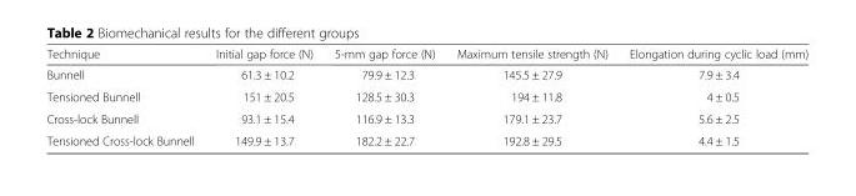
<table><thead><tr><td>Technique</td><td>Initial gap force (N)</td><td>5-mm gap force (N)</td><td>Maximum tensile strength (N)</td><td>Elongation during cyclic load (mm)</td></tr></thead><tbody><tr><td>Bunnell</td><td>61.3 ± 10.2</td><td>79.9 ± 12.3</td><td>145.5 ± 27.9</td><td>7.9 ± 3.4</td></tr><tr><td>Tensioned Bunnell</td><td>151 ± 20.5</td><td>128.5 ± 30.3</td><td>194 ± 11.8</td><td>4 ± 0.5</td></tr><tr><td>Cross-lock Bunnell</td><td>93.1 ± 15.4</td><td>116.9 ± 13.3</td><td>179.1 ± 23.7</td><td>5.6 ± 2.5</td></tr><tr><td>Tensioned Cross-lock Bunnell</td><td>149.9 ± 13.7</td><td>182.2 ± 22.7</td><td>192.8 ± 29.5</td><td>4.4 ± 1.5</td></tr></tbody></table>